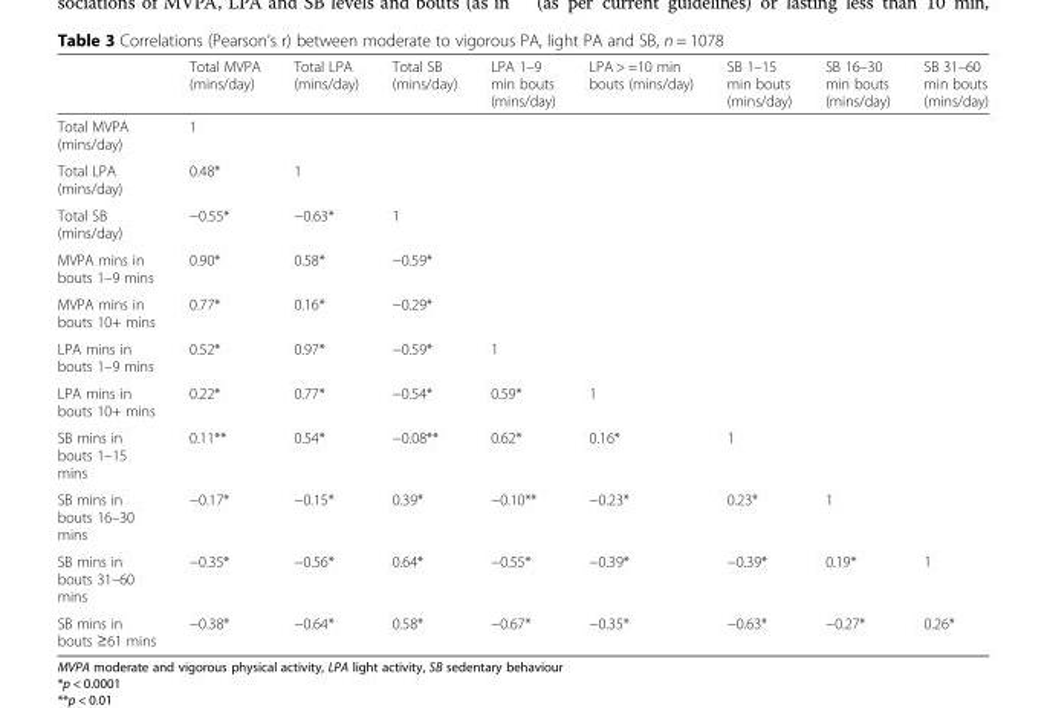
<table><thead><tr><td></td><td>Total MVPA (mins/day)</td><td>Total LPA (mins/day)</td><td>Total SB (mins/day)</td><td>LPA 1–9 min bouts (mins/day)</td><td>LPA &gt; =10 min bouts (mins/day)</td><td>SB 1–15 min bouts (mins/day)</td><td>SB 16–30 min bouts (mins/day)</td><td>SB 31–60 min bouts (mins/day)</td></tr></thead><tbody><tr><td>Total MVPA (mins/day)</td><td>1</td><td></td><td></td><td></td><td></td><td></td><td></td><td></td></tr><tr><td>Total LPA (mins/day)</td><td>0.48*</td><td>1</td><td></td><td></td><td></td><td></td><td></td><td></td></tr><tr><td>Total SB (mins/day)</td><td>−0.55*</td><td>−0.63*</td><td>1</td><td></td><td></td><td></td><td></td><td></td></tr><tr><td>MVPA mins in bouts 1–9 mins</td><td>0.90*</td><td>0.58*</td><td>−0.59*</td><td></td><td></td><td></td><td></td><td></td></tr><tr><td>MVPA mins in bouts 10+ mins</td><td>0.77*</td><td>0.16*</td><td>−0.29*</td><td></td><td></td><td></td><td></td><td></td></tr><tr><td>LPA mins in bouts 1–9 mins</td><td>0.52*</td><td>0.97*</td><td>−0.59*</td><td>1</td><td></td><td></td><td></td><td></td></tr><tr><td>LPA mins in bouts 10+ mins</td><td>0.22*</td><td>0.77*</td><td>−0.54*</td><td>0.59*</td><td>1</td><td></td><td></td><td></td></tr><tr><td>SB mins in bouts 1–15 mins</td><td>0.11**</td><td>0.54*</td><td>−0.08**</td><td>0.62*</td><td>0.16*</td><td>1</td><td></td><td></td></tr><tr><td>SB mins in bouts 16–30 mins</td><td>−0.17*</td><td>−0.15*</td><td>0.39*</td><td>−0.10**</td><td>−0.23*</td><td>0.23*</td><td>1</td><td></td></tr><tr><td>SB mins in bouts 31–60 mins</td><td>−0.35*</td><td>−0.56*</td><td>0.64*</td><td>−0.55*</td><td>−0.39*</td><td>−0.39*</td><td>0.19*</td><td>1</td></tr><tr><td>SB mins in bouts ≥61 mins</td><td>−0.38*</td><td>−0.64*</td><td>0.58*</td><td>−0.67*</td><td>−0.35*</td><td>−0.63*</td><td>−0.27*</td><td>0.26*</td></tr></tbody></table>